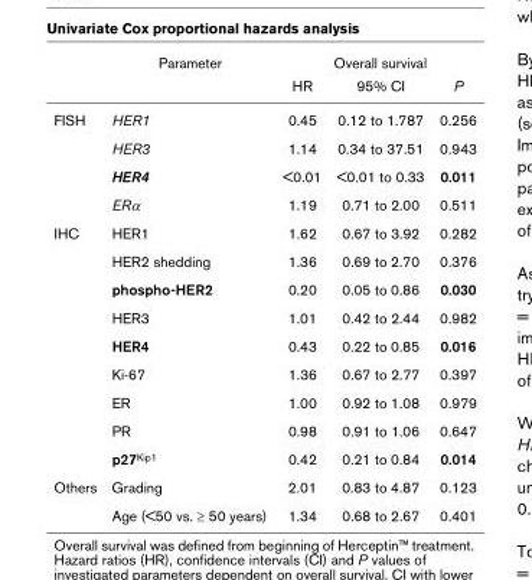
<table><thead><tr><td rowspan="2"></td><td rowspan="2">Parameter</td><td colspan="3">Overall survival</td></tr><tr><td>HR</td><td>95% CI</td><td>P</td></tr></thead><tbody><tr><td rowspan="4">FISH</td><td>HER1</td><td>0.45</td><td>0.12 to 1.787</td><td>0.256</td></tr><tr><td>HER3</td><td>1.14</td><td>0.34 to 37.51</td><td>0.943</td></tr><tr><td>HER4</td><td>&lt;0.01</td><td>&lt;0.01 to 0.33</td><td>0.011</td></tr><tr><td>ERα</td><td>1.19</td><td>0.71 to 2.00</td><td>0.511</td></tr><tr><td rowspan="9">IHC</td><td>HER1</td><td>1.62</td><td>0.67 to 3.92</td><td>0.282</td></tr><tr><td>HER2 shedding</td><td>1.36</td><td>0.69 to 2.70</td><td>0.376</td></tr><tr><td>phospho-HER2</td><td>0.20</td><td>0.05 to 0.86</td><td>0.030</td></tr><tr><td>HER3</td><td>1.01</td><td>0.42 to 2.44</td><td>0.982</td></tr><tr><td>HER4</td><td>0.43</td><td>0.22 to 0.85</td><td>0.016</td></tr><tr><td>Ki-67</td><td>1.36</td><td>0.67 to 2.77</td><td>0.397</td></tr><tr><td>ER</td><td>1.00</td><td>0.92 to 1.08</td><td>0.979</td></tr><tr><td>PR</td><td>0.98</td><td>0.91 to 1.06</td><td>0.647</td></tr><tr><td>p27<sup>Kip1</sup></td><td>0.42</td><td>0.21 to 0.84</td><td>0.014</td></tr><tr><td rowspan="2">Others</td><td>Grading</td><td>2.01</td><td>0.83 to 4.87</td><td>0.123</td></tr><tr><td>Age (&lt;50 vs. ≥ 50 years)</td><td>1.34</td><td>0.68 to 2.67</td><td>0.401</td></tr></tbody></table>